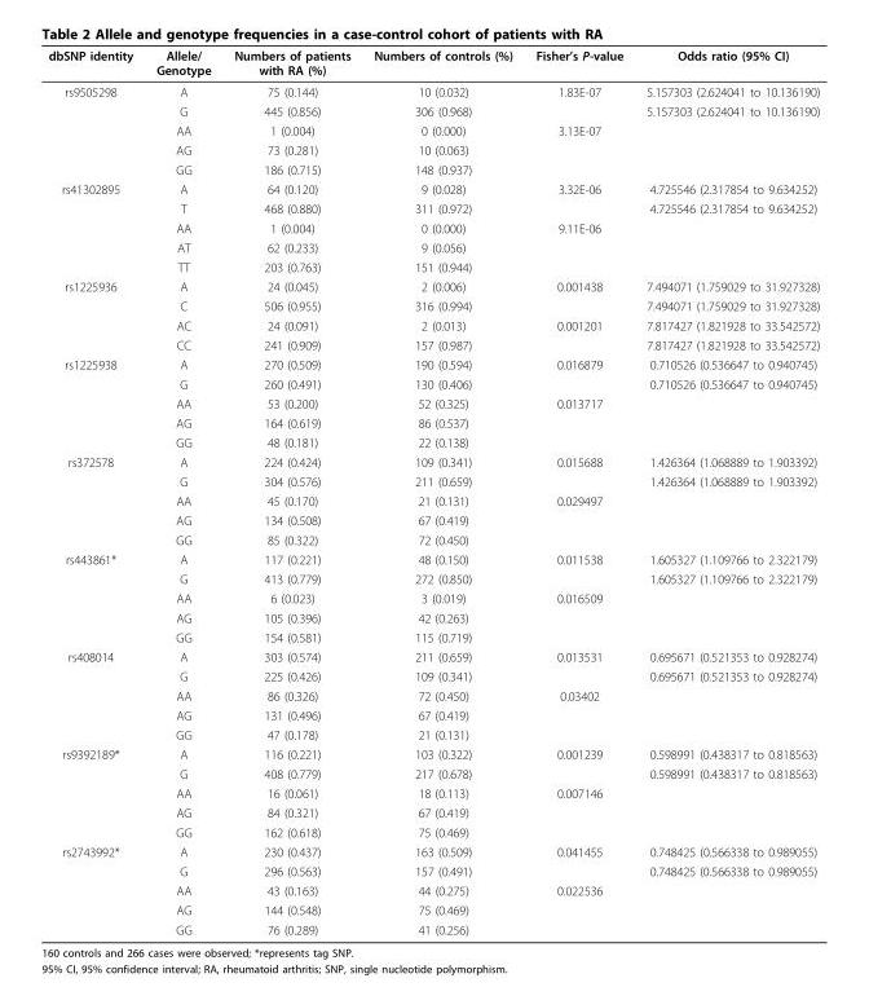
<table><thead><tr><td>dbSNP identity</td><td>Allele/ Genotype</td><td>Numbers of patients with RA (%)</td><td>Numbers of controls (%)</td><td>Fisher’s P-value</td><td>Odds ratio (95% CI)</td></tr></thead><tbody><tr><td rowspan="5">rs9505298</td><td>A</td><td>75 (0.144)</td><td>10 (0.032)</td><td>1.83E-07</td><td>5.157303 (2.624041 to 10.136190)</td></tr><tr><td>G</td><td>445 (0.856)</td><td>306 (0.968)</td><td></td><td>5.157303 (2.624041 to 10.136190)</td></tr><tr><td>AA</td><td>1 (0.004)</td><td>0 (0.000)</td><td>3.13E-07</td><td></td></tr><tr><td>AG</td><td>73 (0.281)</td><td>10 (0.063)</td><td></td><td></td></tr><tr><td>GG</td><td>186 (0.715)</td><td>148 (0.937)</td><td></td><td></td></tr><tr><td rowspan="5">rs41302895</td><td>A</td><td>64 (0.120)</td><td>9 (0.028)</td><td>3.32E-06</td><td>4.725546 (2.317854 to 9.634252)</td></tr><tr><td>T</td><td>468 (0.880)</td><td>311 (0.972)</td><td></td><td>4.725546 (2.317854 to 9.634252)</td></tr><tr><td>AA</td><td>1 (0.004)</td><td>0 (0.000)</td><td>9.11E-06</td><td></td></tr><tr><td>AT</td><td>62 (0.233)</td><td>9 (0.056)</td><td></td><td></td></tr><tr><td>TT</td><td>203 (0.763)</td><td>151 (0.944)</td><td></td><td></td></tr><tr><td rowspan="4">rs1225936</td><td>A</td><td>24 (0.045)</td><td>2 (0.006)</td><td>0.001438</td><td>7.494071 (1.759029 to 31.927328)</td></tr><tr><td>C</td><td>506 (0.955)</td><td>316 (0.994)</td><td></td><td>7.494071 (1.759029 to 31.927328)</td></tr><tr><td>AC</td><td>24 (0.091)</td><td>2 (0.013)</td><td>0.001201</td><td>7.817427 (1.821928 to 33.542572)</td></tr><tr><td>CC</td><td>241 (0.909)</td><td>157 (0.987)</td><td></td><td>7.817427 (1.821928 to 33.542572)</td></tr><tr><td rowspan="5">rs1225938</td><td>A</td><td>270 (0.509)</td><td>190 (0.594)</td><td>0.016879</td><td>0.710526 (0.536647 to 0.940745)</td></tr><tr><td>G</td><td>260 (0.491)</td><td>130 (0.406)</td><td></td><td>0.710526 (0.536647 to 0.940745)</td></tr><tr><td>AA</td><td>53 (0.200)</td><td>52 (0.325)</td><td>0.013717</td><td></td></tr><tr><td>AG</td><td>164 (0.619)</td><td>86 (0.537)</td><td></td><td></td></tr><tr><td>GG</td><td>48 (0.181)</td><td>22 (0.138)</td><td></td><td></td></tr><tr><td rowspan="5">rs372578</td><td>A</td><td>224 (0.424)</td><td>109 (0.341)</td><td>0.015688</td><td>1.426364 (1.068889 to 1.903392)</td></tr><tr><td>G</td><td>304 (0.576)</td><td>211 (0.659)</td><td></td><td>1.426364 (1.068889 to 1.903392)</td></tr><tr><td>AA</td><td>45 (0.170)</td><td>21 (0.131)</td><td>0.029497</td><td></td></tr><tr><td>AG</td><td>134 (0.508)</td><td>67 (0.419)</td><td></td><td></td></tr><tr><td>GG</td><td>85 (0.322)</td><td>72 (0.450)</td><td></td><td></td></tr><tr><td rowspan="5">rs443861*</td><td>A</td><td>117 (0.221)</td><td>48 (0.150)</td><td>0.011538</td><td>1.605327 (1.109766 to 2.322179)</td></tr><tr><td>G</td><td>413 (0.779)</td><td>272 (0.850)</td><td></td><td>1.605327 (1.109766 to 2.322179)</td></tr><tr><td>AA</td><td>6 (0.023)</td><td>3 (0.019)</td><td>0.016509</td><td></td></tr><tr><td>AG</td><td>105 (0.396)</td><td>42 (0.263)</td><td></td><td></td></tr><tr><td>GG</td><td>154 (0.581)</td><td>115 (0.719)</td><td></td><td></td></tr><tr><td rowspan="5">rs408014</td><td>A</td><td>303 (0.574)</td><td>211 (0.659)</td><td>0.013531</td><td>0.695671 (0.521353 to 0.928274)</td></tr><tr><td>G</td><td>225 (0.426)</td><td>109 (0.341)</td><td></td><td>0.695671 (0.521353 to 0.928274)</td></tr><tr><td>AA</td><td>86 (0.326)</td><td>72 (0.450)</td><td>0.03402</td><td></td></tr><tr><td>AG</td><td>131 (0.496)</td><td>67 (0.419)</td><td></td><td></td></tr><tr><td>GG</td><td>47 (0.178)</td><td>21 (0.131)</td><td></td><td></td></tr><tr><td rowspan="5">rs9392189*</td><td>A</td><td>116 (0.221)</td><td>103 (0.322)</td><td>0.001239</td><td>0.598991 (0.438317 to 0.818563)</td></tr><tr><td>G</td><td>408 (0.779)</td><td>217 (0.678)</td><td></td><td>0.598991 (0.438317 to 0.818563)</td></tr><tr><td>AA</td><td>16 (0.061)</td><td>18 (0.113)</td><td>0.007146</td><td></td></tr><tr><td>AG</td><td>84 (0.321)</td><td>67 (0.419)</td><td></td><td></td></tr><tr><td>GG</td><td>162 (0.618)</td><td>75 (0.469)</td><td></td><td></td></tr><tr><td rowspan="5">rs2743992*</td><td>A</td><td>230 (0.437)</td><td>163 (0.509)</td><td>0.041455</td><td>0.748425 (0.566338 to 0.989055)</td></tr><tr><td>G</td><td>296 (0.563)</td><td>157 (0.491)</td><td></td><td>0.748425 (0.566338 to 0.989055)</td></tr><tr><td>AA</td><td>43 (0.163)</td><td>44 (0.275)</td><td>0.022536</td><td></td></tr><tr><td>AG</td><td>144 (0.548)</td><td>75 (0.469)</td><td></td><td></td></tr><tr><td>GG</td><td>76 (0.289)</td><td>41 (0.256)</td><td></td><td></td></tr></tbody></table>